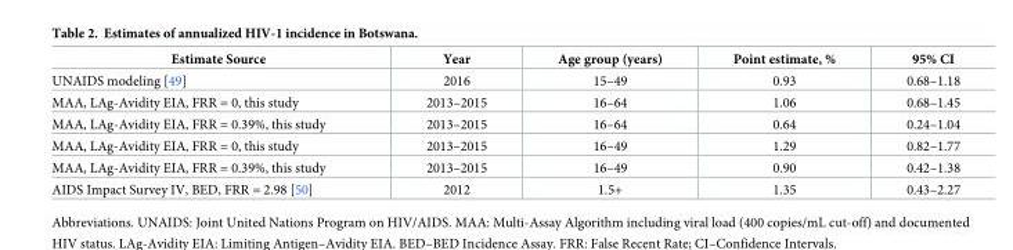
<table><thead><tr><td>Estimate Source</td><td>Year</td><td>Age group (years)</td><td>Point estimate, %</td><td>95% CI</td></tr></thead><tbody><tr><td>UNAIDS modeling [49]</td><td>2016</td><td>15–49</td><td>0.93</td><td>0.68–1.18</td></tr><tr><td>MAA, LAg-Avidity EIA, FRR = 0, this study</td><td>2013–2015</td><td>16–64</td><td>1.06</td><td>0.68–1.45</td></tr><tr><td>MAA, LAg-Avidity EIA, FRR = 0.39%, this study</td><td>2013–2015</td><td>16–64</td><td>0.64</td><td>0.24–1.04</td></tr><tr><td>MAA, LAg-Avidity EIA, FRR = 0, this study</td><td>2013–2015</td><td>16–49</td><td>1.29</td><td>0.82–1.77</td></tr><tr><td>MAA, LAg-Avidity EIA, FRR = 0.39%, this study</td><td>2013–2015</td><td>16–49</td><td>0.90</td><td>0.42–1.38</td></tr><tr><td>AIDS Impact Survey IV, BED, FRR = 2.98 [50]</td><td>2012</td><td>1.5+</td><td>1.35</td><td>0.43–2.27</td></tr></tbody></table>